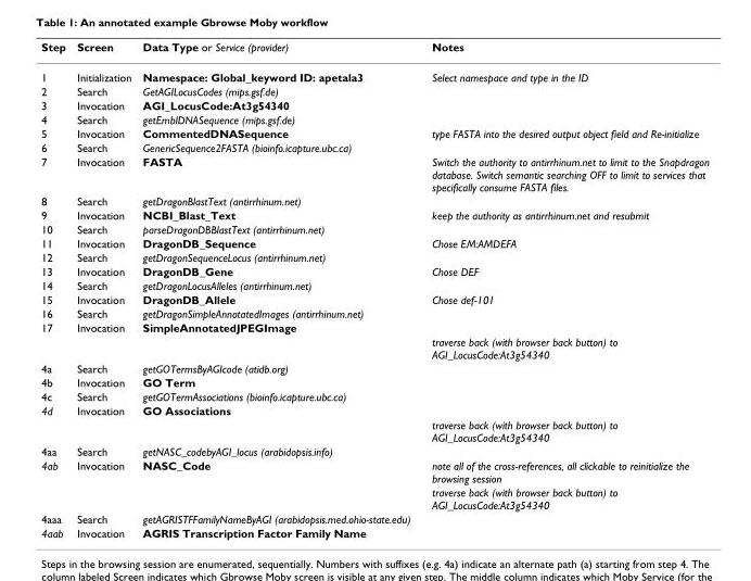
<table><thead><tr><td>Step</td><td>Screen</td><td>Data Type or Service (provider)</td><td>Notes</td></tr></thead><tbody><tr><td>1</td><td>Initialization</td><td>Namespace: Global_keyword ID: apetala3</td><td>Select namespace and type in the ID</td></tr><tr><td>2</td><td>Search</td><td>GetAGILocusCodes (mips.gsf.de)</td><td></td></tr><tr><td>3</td><td>Invocation</td><td>AGI_LocusCode:At3g54340</td><td></td></tr><tr><td>4</td><td>Search</td><td>getEmblDNASequence (mips.gsf.de)</td><td></td></tr><tr><td>5</td><td>Invocation</td><td>CommentedDNASequence</td><td>type FASTA into the desired output object field and Re-initialize</td></tr><tr><td>6</td><td>Search</td><td>GenericSequence2FASTA (bioinfo.icapture.ubc.ca)</td><td></td></tr><tr><td>7</td><td>Invocation</td><td>FASTA</td><td>Switch the authority to antirrhinum.net to limit to the Snapdragon database. Switch semantic searching OFF to limit to services that specifically consume FASTA files.</td></tr><tr><td>8</td><td>Search</td><td>getDragonBlastText (antirrhinum.net)</td><td></td></tr><tr><td>9</td><td>Invocation</td><td>NCBI_Blast_Text</td><td>keep the authority as antirrhinum.net and resubmit</td></tr><tr><td>10</td><td>Search</td><td>parseDragonDBBlastText (antirrhinum.net)</td><td></td></tr><tr><td>11</td><td>Invocation</td><td>DragonDB_Sequence</td><td>Chose EM:AMDEFA</td></tr><tr><td>12</td><td>Search</td><td>getDragonSequenceLocus (antirrhinum.net)</td><td></td></tr><tr><td>13</td><td>Invocation</td><td>DragonDB_Gene</td><td>Chose DEF</td></tr><tr><td>14</td><td>Search</td><td>getDragonLocusAlleles (antirrhinum.net)</td><td></td></tr><tr><td>15</td><td>Invocation</td><td>DragonDB_Allele</td><td>Chose def-101</td></tr><tr><td>16</td><td>Search</td><td>getDragonSimpleAnnotatedImages (antirrhinum.net)</td><td></td></tr><tr><td rowspan="2">17</td><td>Invocation</td><td>SimpleAnnotatedJPEGImage</td><td></td></tr><tr><td></td><td></td><td>traverse back (with browser back button) to AGI_LocusCode:At3g54340</td></tr><tr><td>4a</td><td>Search</td><td>getGOTermsByAGIcode (atidb.org)</td><td></td></tr><tr><td>4b</td><td>Invocation</td><td>GO Term</td><td></td></tr><tr><td>4c</td><td>Search</td><td>getGOTermAssociations (bioinfo.icapture.ubc.ca)</td><td></td></tr><tr><td rowspan="2">4d</td><td>Invocation</td><td>GO Associations</td><td></td></tr><tr><td></td><td></td><td>traverse back (with browser back button) to AGI_LocusCode:At3g54340</td></tr><tr><td>4aa</td><td>Search</td><td>getNASC_codebyAGI_locus (arabidopsis.info)</td><td></td></tr><tr><td rowspan="2">4ab</td><td>Invocation</td><td>NASC_Code</td><td>note all of the cross-references, all clickable to reinitialize the browsing session</td></tr><tr><td></td><td></td><td>traverse back (with browser back button) to AGI_LocusCode:At3g54340</td></tr><tr><td>4aaa</td><td>Search</td><td>getAGRISTFFamilyNameByAGI (arabidopsis.med.ohio-state.edu)</td><td></td></tr><tr><td>4aab</td><td>Invocation</td><td>AGRIS Transcription Factor Family Name</td><td></td></tr></tbody></table>